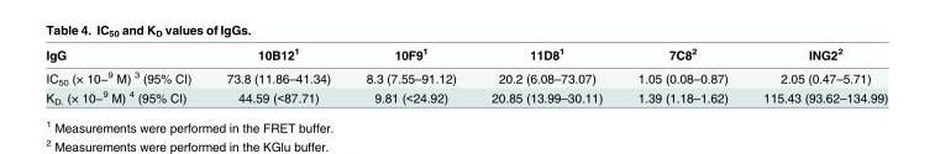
<table><thead><tr><td>IgG</td><td>10B12<sup>1</sup></td><td>10F9<sup>1</sup></td><td>11D8<sup>1</sup></td><td>7C8<sup>2</sup></td><td>ING2<sup>2</sup></td></tr></thead><tbody><tr><td>IC<sub>50</sub> (× 10−<sup>9</sup> M) <sup>3</sup> (95% CI)</td><td>73.8 (11.86–41.34)</td><td>8.3 (7.55–91.12)</td><td>20.2 (6.08–73.07)</td><td>1.05 (0.08–0.87)</td><td>2.05 (0.47–5.71)</td></tr><tr><td>K<sub>D.</sub> (× 10−<sup>9</sup> M) <sup>4</sup> (95% CI)</td><td>44.59 (&lt;87.71)</td><td>9.81 (&lt;24.92)</td><td>20.85 (13.99–30.11)</td><td>1.39 (1.18–1.62)</td><td>115.43 (93.62–134.99)</td></tr></tbody></table>